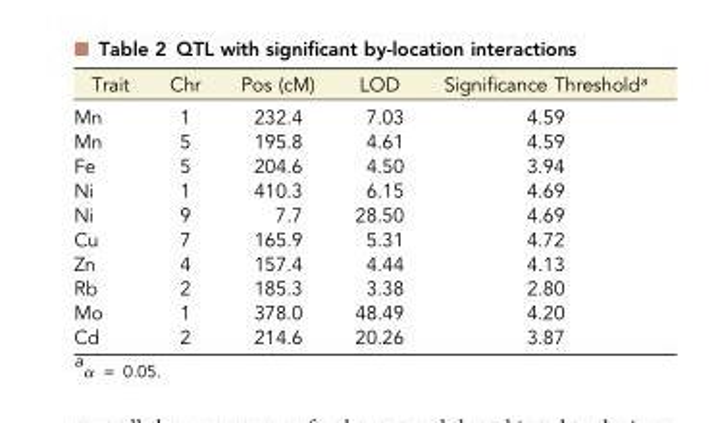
<table><thead><tr><td>Trait</td><td>Chr</td><td>Pos (cM)</td><td>LOD</td><td>Significance Threshold<sup>a</sup></td></tr></thead><tbody><tr><td>Mn</td><td>1</td><td>232.4</td><td>7.03</td><td>4.59</td></tr><tr><td>Mn</td><td>5</td><td>195.8</td><td>4.61</td><td>4.59</td></tr><tr><td>Fe</td><td>5</td><td>204.6</td><td>4.50</td><td>3.94</td></tr><tr><td>Ni</td><td>1</td><td>410.3</td><td>6.15</td><td>4.69</td></tr><tr><td>Ni</td><td>9</td><td>7.7</td><td>28.50</td><td>4.69</td></tr><tr><td>Cu</td><td>7</td><td>165.9</td><td>5.31</td><td>4.72</td></tr><tr><td>Zn</td><td>4</td><td>157.4</td><td>4.44</td><td>4.13</td></tr><tr><td>Rb</td><td>2</td><td>185.3</td><td>3.38</td><td>2.80</td></tr><tr><td>Mo</td><td>1</td><td>378.0</td><td>48.49</td><td>4.20</td></tr><tr><td>Cd</td><td>2</td><td>214.6</td><td>20.26</td><td>3.87</td></tr></tbody></table>